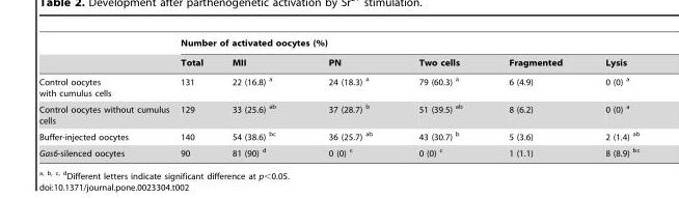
<table><thead><tr><td rowspan="2"></td><td colspan="6">Number of activated oocytes (%)</td></tr><tr><td>Total</td><td>MII</td><td>PN</td><td>Two cells</td><td>Fragmented</td><td>Lysis</td></tr></thead><tbody><tr><td>Control oocytes with cumulus cells</td><td>131</td><td>22 (16.8) <sup>a</sup></td><td>24 (18.3) <sup>a</sup></td><td>79 (60.3) <sup>a</sup></td><td>6 (4.9)</td><td>0 (0) <sup>a</sup></td></tr><tr><td>Control oocytes without cumulus cells</td><td>129</td><td>33 (25.6) <sup>ab</sup></td><td>37 (28.7) <sup>b</sup></td><td>51 (39.5) <sup>ab</sup></td><td>8 (6.2)</td><td>0 (0) <sup>a</sup></td></tr><tr><td>Buffer-injected oocytes</td><td>140</td><td>54 (38.6) <sup>bc</sup></td><td>36 (25.7) <sup>ab</sup></td><td>43 (30.7) <sup>b</sup></td><td>5 (3.6)</td><td>2 (1.4) <sup>ab</sup></td></tr><tr><td>Gas6-silenced oocytes</td><td>90</td><td>81 (90) <sup>d</sup></td><td>0 (0) <sup>c</sup></td><td>0 (0) <sup>c</sup></td><td>1 (1.1)</td><td>8 (8.9) <sup>bc</sup></td></tr></tbody></table>